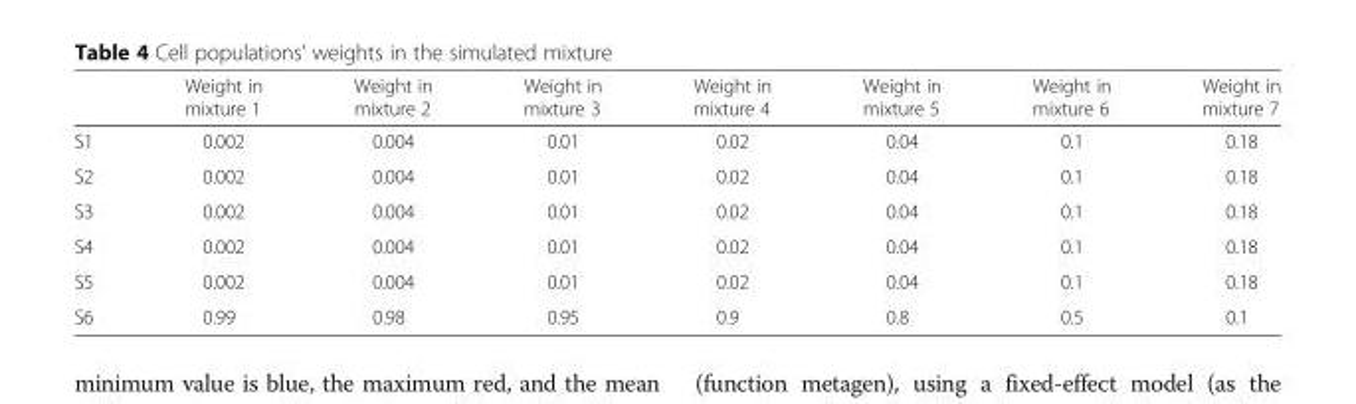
<table><thead><tr><td></td><td>Weight in mixture 1</td><td>Weight in mixture 2</td><td>Weight in mixture 3</td><td>Weight in mixture 4</td><td>Weight in mixture 5</td><td>Weight in mixture 6</td><td>Weight in mixture 7</td></tr></thead><tbody><tr><td>S1</td><td>0.002</td><td>0.004</td><td>0.01</td><td>0.02</td><td>0.04</td><td>0.1</td><td>0.18</td></tr><tr><td>S2</td><td>0.002</td><td>0.004</td><td>0.01</td><td>0.02</td><td>0.04</td><td>0.1</td><td>0.18</td></tr><tr><td>S3</td><td>0.002</td><td>0.004</td><td>0.01</td><td>0.02</td><td>0.04</td><td>0.1</td><td>0.18</td></tr><tr><td>S4</td><td>0.002</td><td>0.004</td><td>0.01</td><td>0.02</td><td>0.04</td><td>0.1</td><td>0.18</td></tr><tr><td>S5</td><td>0.002</td><td>0.004</td><td>0.01</td><td>0.02</td><td>0.04</td><td>0.1</td><td>0.18</td></tr><tr><td>S6</td><td>0.99</td><td>0.98</td><td>0.95</td><td>0.9</td><td>0.8</td><td>0.5</td><td>0.1</td></tr></tbody></table>